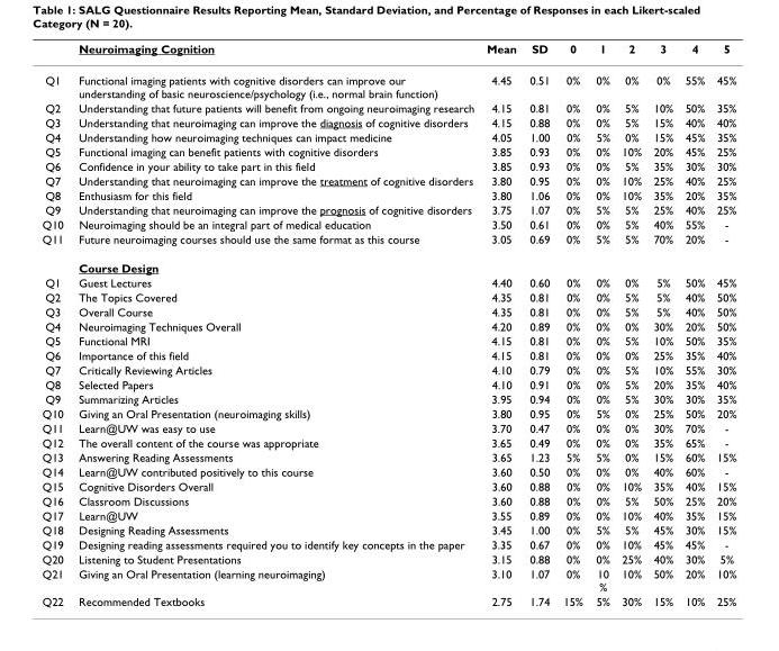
<table><thead><tr><td></td><td>Neuroimaging Cognition</td><td>Mean</td><td>SD</td><td>0</td><td>1</td><td>2</td><td>3</td><td>4</td><td>5</td></tr></thead><tbody><tr><td>Q1</td><td>Functional imaging patients with cognitive disorders can improve our understanding of basic neuroscience/psychology (i.e., normal brain function)</td><td>4.45</td><td>0.51</td><td>0%</td><td>0%</td><td>0%</td><td>0%</td><td>55%</td><td>45%</td></tr><tr><td>Q2</td><td>Understanding that future patients will benefit from ongoing neuroimaging research</td><td>4.15</td><td>0.81</td><td>0%</td><td>0%</td><td>5%</td><td>10%</td><td>50%</td><td>35%</td></tr><tr><td>Q3</td><td>Understanding that neuroimaging can improve the diagnosis of cognitive disorders</td><td>4.15</td><td>0.88</td><td>0%</td><td>0%</td><td>5%</td><td>15%</td><td>40%</td><td>40%</td></tr><tr><td>Q4</td><td>Understanding how neuroimaging techniques can impact medicine</td><td>4.05</td><td>1.00</td><td>0%</td><td>5%</td><td>0%</td><td>15%</td><td>45%</td><td>35%</td></tr><tr><td>Q5</td><td>Functional imaging can benefit patients with cognitive disorders</td><td>3.85</td><td>0.93</td><td>0%</td><td>0%</td><td>10%</td><td>20%</td><td>45%</td><td>25%</td></tr><tr><td>Q6</td><td>Confidence in your ability to take part in this field</td><td>3.85</td><td>0.93</td><td>0%</td><td>0%</td><td>5%</td><td>35%</td><td>30%</td><td>30%</td></tr><tr><td>Q7</td><td>Understanding that neuroimaging can improve the treatment of cognitive disorders</td><td>3.80</td><td>0.95</td><td>0%</td><td>0%</td><td>10%</td><td>25%</td><td>40%</td><td>25%</td></tr><tr><td>Q8</td><td>Enthusiasm for this field</td><td>3.80</td><td>1.06</td><td>0%</td><td>0%</td><td>10%</td><td>35%</td><td>20%</td><td>35%</td></tr><tr><td>Q9</td><td>Understanding that neuroimaging can improve the prognosis of cognitive disorders</td><td>3.75</td><td>1.07</td><td>0%</td><td>5%</td><td>5%</td><td>25%</td><td>40%</td><td>25%</td></tr><tr><td>Q10</td><td>Neuroimaging should be an integral part of medical education</td><td>3.50</td><td>0.61</td><td>0%</td><td>0%</td><td>5%</td><td>40%</td><td>55%</td><td>-</td></tr><tr><td rowspan="2">Q11</td><td>Future neuroimaging courses should use the same format as this course</td><td>3.05</td><td>0.69</td><td>0%</td><td>5%</td><td>5%</td><td>70%</td><td>20%</td><td>-</td></tr><tr><td>Course Design</td><td></td><td></td><td></td><td></td><td></td><td></td><td></td><td></td></tr><tr><td>Q1</td><td>Guest Lectures</td><td>4.40</td><td>0.60</td><td>0%</td><td>0%</td><td>0%</td><td>5%</td><td>50%</td><td>45%</td></tr><tr><td>Q2</td><td>The Topics Covered</td><td>4.35</td><td>0.81</td><td>0%</td><td>0%</td><td>5%</td><td>5%</td><td>40%</td><td>50%</td></tr><tr><td>Q3</td><td>Overall Course</td><td>4.35</td><td>0.81</td><td>0%</td><td>0%</td><td>5%</td><td>5%</td><td>40%</td><td>50%</td></tr><tr><td>Q4</td><td>Neuroimaging Techniques Overall</td><td>4.20</td><td>0.89</td><td>0%</td><td>0%</td><td>0%</td><td>30%</td><td>20%</td><td>50%</td></tr><tr><td>Q5</td><td>Functional MRI</td><td>4.15</td><td>0.81</td><td>0%</td><td>0%</td><td>5%</td><td>10%</td><td>50%</td><td>35%</td></tr><tr><td>Q6</td><td>Importance of this field</td><td>4.15</td><td>0.81</td><td>0%</td><td>0%</td><td>0%</td><td>25%</td><td>35%</td><td>40%</td></tr><tr><td>Q7</td><td>Critically Reviewing Articles</td><td>4.10</td><td>0.79</td><td>0%</td><td>0%</td><td>5%</td><td>10%</td><td>55%</td><td>30%</td></tr><tr><td>Q8</td><td>Selected Papers</td><td>4.10</td><td>0.91</td><td>0%</td><td>0%</td><td>5%</td><td>20%</td><td>35%</td><td>40%</td></tr><tr><td>Q9</td><td>Summarizing Articles</td><td>3.95</td><td>0.94</td><td>0%</td><td>0%</td><td>5%</td><td>30%</td><td>30%</td><td>35%</td></tr><tr><td>Q10</td><td>Giving an Oral Presentation (neuroimaging skills)</td><td>3.80</td><td>0.95</td><td>0%</td><td>5%</td><td>0%</td><td>25%</td><td>50%</td><td>20%</td></tr><tr><td>Q11</td><td>Learn@UW was easy to use</td><td>3.70</td><td>0.47</td><td>0%</td><td>0%</td><td>0%</td><td>30%</td><td>70%</td><td>-</td></tr><tr><td>Q12</td><td>The overall content of the course was appropriate</td><td>3.65</td><td>0.49</td><td>0%</td><td>0%</td><td>0%</td><td>35%</td><td>65%</td><td>-</td></tr><tr><td>Q13</td><td>Answering Reading Assessments</td><td>3.65</td><td>1.23</td><td>5%</td><td>5%</td><td>0%</td><td>15%</td><td>60%</td><td>15%</td></tr><tr><td>Q14</td><td>Learn@UW contributed positively to this course</td><td>3.60</td><td>0.50</td><td>0%</td><td>0%</td><td>0%</td><td>40%</td><td>60%</td><td>-</td></tr><tr><td>Q15</td><td>Cognitive Disorders Overall</td><td>3.60</td><td>0.88</td><td>0%</td><td>0%</td><td>10%</td><td>35%</td><td>40%</td><td>15%</td></tr><tr><td>Q16</td><td>Classroom Discussions</td><td>3.60</td><td>0.88</td><td>0%</td><td>0%</td><td>5%</td><td>50%</td><td>25%</td><td>20%</td></tr><tr><td>Q17</td><td>Learn@UW</td><td>3.55</td><td>0.89</td><td>0%</td><td>0%</td><td>10%</td><td>40%</td><td>35%</td><td>15%</td></tr><tr><td>Q18</td><td>Designing Reading Assessments</td><td>3.45</td><td>1.00</td><td>0%</td><td>5%</td><td>5%</td><td>45%</td><td>30%</td><td>15%</td></tr><tr><td>Q19</td><td>Designing reading assessments required you to identify key concepts in the paper</td><td>3.35</td><td>0.67</td><td>0%</td><td>0%</td><td>10%</td><td>45%</td><td>45%</td><td>-</td></tr><tr><td>Q20</td><td>Listening to Student Presentations</td><td>3.15</td><td>0.88</td><td>0%</td><td>0%</td><td>25%</td><td>40%</td><td>30%</td><td>5%</td></tr><tr><td>Q21</td><td>Giving an Oral Presentation (learning neuroimaging)</td><td>3.10</td><td>1.07</td><td>0%</td><td>10 %</td><td>10%</td><td>50%</td><td>20%</td><td>10%</td></tr><tr><td>Q22</td><td>Recommended Textbooks</td><td>2.75</td><td>1.74</td><td>15%</td><td>5%</td><td>30%</td><td>15%</td><td>10%</td><td>25%</td></tr></tbody></table>